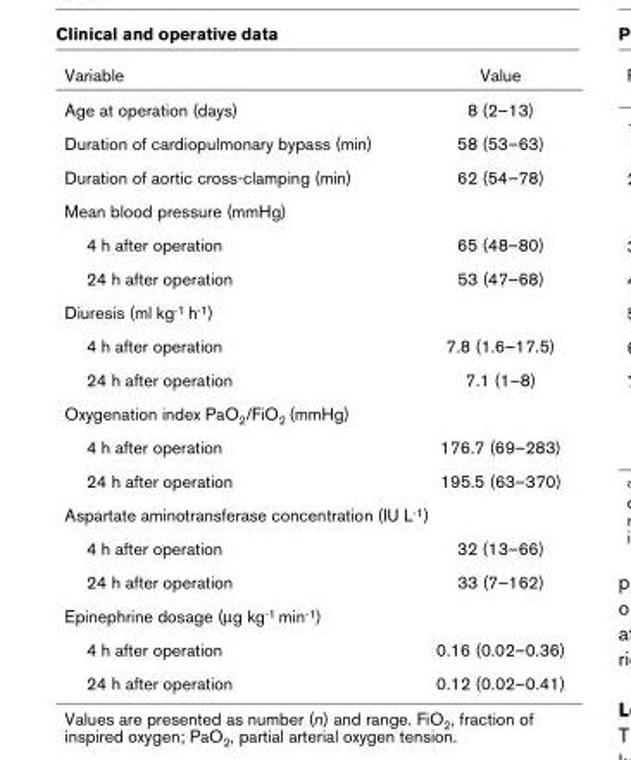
<table><thead><tr><td>Variable</td><td>Value</td></tr></thead><tbody><tr><td>Age at operation (days)</td><td>8 (2–13)</td></tr><tr><td>Duration of cardiopulmonary bypass (min)</td><td>58 (53–63)</td></tr><tr><td>Duration of aortic cross-clamping (min)</td><td>62 (54–78)</td></tr><tr><td colspan="2">Mean blood pressure (mmHg)</td></tr><tr><td>4 h after operation</td><td>65 (48–80)</td></tr><tr><td>24 h after operation</td><td>53 (47–68)</td></tr><tr><td colspan="2">Diuresis (ml kg-1 h-1)</td></tr><tr><td>4 h after operation</td><td>7.8 (1.6–17.5)</td></tr><tr><td>24 h after operation</td><td>7.1 (1–8)</td></tr><tr><td colspan="2">Oxygenation index PaO2/FiO2 (mmHg)</td></tr><tr><td>4 h after operation</td><td>176.7 (69–283)</td></tr><tr><td>24 h after operation</td><td>195.5 (63–370)</td></tr><tr><td colspan="2">Aspartate aminotransferase concentration (IU L-1)</td></tr><tr><td>4 h after operation</td><td>32 (13–66)</td></tr><tr><td>24 h after operation</td><td>33 (7–162)</td></tr><tr><td colspan="2">Epinephrine dosage (µg kg-1 min-1)</td></tr><tr><td>4 h after operation</td><td>0.16 (0.02–0.36)</td></tr><tr><td>24 h after operation</td><td>0.12 (0.02–0.41)</td></tr></tbody></table>